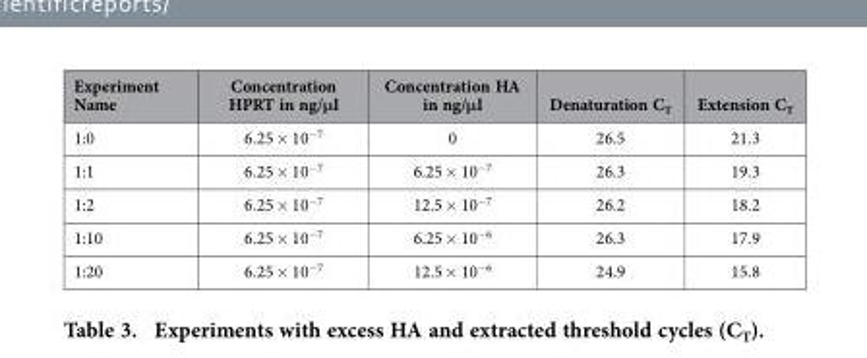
<table><thead><tr><td>Experiment Name</td><td>Concentration HPRT in ng/μl</td><td>Concentration HA in ng/μl</td><td>Denaturation C<sub>T</sub></td><td>Extension C<sub>T</sub></td></tr></thead><tbody><tr><td>1:0</td><td>6.25 × 10<sup>−7</sup></td><td>0</td><td>26.5</td><td>21.3</td></tr><tr><td>1:1</td><td>6.25 × 10<sup>−7</sup></td><td>6.25 × 10<sup>−7</sup></td><td>26.3</td><td>19.3</td></tr><tr><td>1:2</td><td>6.25 × 10<sup>−7</sup></td><td>12.5 × 10<sup>−7</sup></td><td>26.2</td><td>18.2</td></tr><tr><td>1:10</td><td>6.25 × 10<sup>−7</sup></td><td>6.25 × 10<sup>−6</sup></td><td>26.3</td><td>17.9</td></tr><tr><td>1:20</td><td>6.25 × 10<sup>−7</sup></td><td>12.5 × 10<sup>−6</sup></td><td>24.9</td><td>15.8</td></tr></tbody></table>